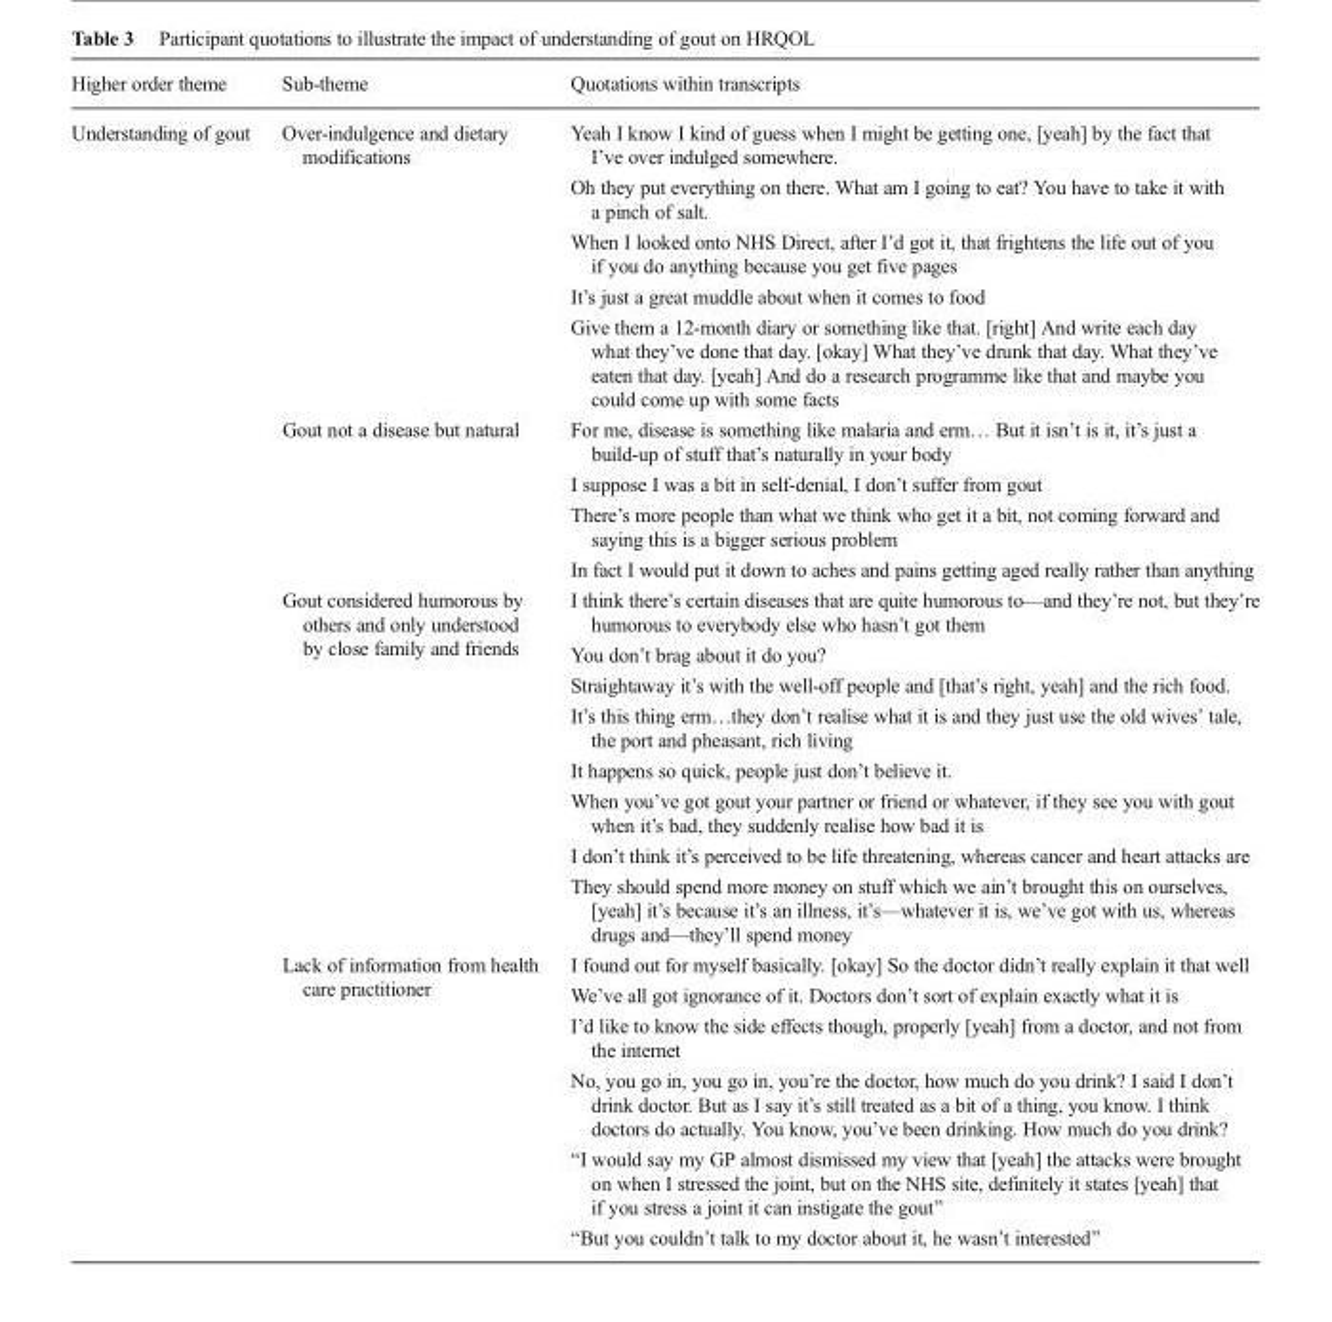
<table><thead><tr><td>Higher order theme</td><td>Sub-theme</td><td>Quotations within transcripts</td></tr></thead><tbody><tr><td rowspan="23">Understanding of gout</td><td rowspan="5">Over-indulgence and dietary modifications</td><td>Yeah I know I kind of guess when I might be getting one, [yeah] by the fact that I’ve over indulged somewhere.</td></tr><tr><td>Oh they put everything on there. What am I going to eat? You have to take it with a pinch of salt.</td></tr><tr><td>When I looked onto NHS Direct, after I’d got it, that frightens the life out of you if you do anything because you get five pages</td></tr><tr><td>It’s just a great muddle about when it comes to food</td></tr><tr><td>Give them a 12-month diary or something like that. [right] And write each day what they’ve done that day. [okay] What they’ve drunk that day. What they’ve eaten that day. [yeah] And do a research programme like that and maybe you could come up with some facts</td></tr><tr><td rowspan="4">Gout not a disease but natural</td><td>For me, disease is something like malaria and erm… But it isn’t is it, it’s just a build-up of stuff that’s naturally in your body</td></tr><tr><td>I suppose I was a bit in self-denial, I don’t suffer from gout</td></tr><tr><td>There’s more people than what we think who get it a bit, not coming forward and saying this is a bigger serious problem</td></tr><tr><td>In fact I would put it down to aches and pains getting aged really rather than anything</td></tr><tr><td rowspan="8">Gout considered humorous by others and only understood by close family and friends</td><td>I think there’s certain diseases that are quite humorous to—and they’re not, but they’re humorous to everybody else who hasn’t got them</td></tr><tr><td>You don’t brag about it do you?</td></tr><tr><td>Straightaway it’s with the well-off people and [that’s right, yeah] and the rich food.</td></tr><tr><td>It’s this thing erm…they don’t realise what it is and they just use the old wives’ tale, the port and pheasant, rich living</td></tr><tr><td>It happens so quick, people just don’t believe it.</td></tr><tr><td>When you’ve got gout your partner or friend or whatever, if they see you with gout when it’s bad, they suddenly realise how bad it is</td></tr><tr><td>I don’t think it’s perceived to be life threatening, whereas cancer and heart attacks are</td></tr><tr><td>They should spend more money on stuff which we ain’t brought this on ourselves, [yeah] it’s because it’s an illness, it’s—whatever it is, we’ve got with us, whereas drugs and—they’ll spend money</td></tr><tr><td rowspan="6">Lack of information from health care practitioner</td><td>I found out for myself basically. [okay] So the doctor didn’t really explain it that well</td></tr><tr><td>We’ve all got ignorance of it. Doctors don’t sort of explain exactly what it is</td></tr><tr><td>I’d like to know the side effects though, properly [yeah] from a doctor, and not from the internet</td></tr><tr><td>No, you go in, you go in, you’re the doctor, how much do you drink? I said I don’t drink doctor. But as I say it’s still treated as a bit of a thing, you know. I think doctors do actually. You know, you’ve been drinking. How much do you drink?</td></tr><tr><td>“I would say my GP almost dismissed my view that [yeah] the attacks were brought on when I stressed the joint, but on the NHS site, definitely it states [yeah] that if you stress a joint it can instigate the gout”</td></tr><tr><td>“But you couldn’t talk to my doctor about it, he wasn’t interested”</td></tr></tbody></table>